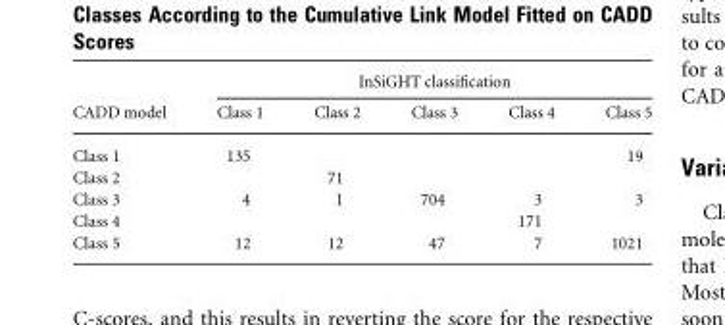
<table><thead><tr><td rowspan="2">CADD model</td><td colspan="5">InSiGHT classification</td></tr><tr><td>Class 1</td><td>Class 2</td><td>Class 3</td><td>Class 4</td><td>Class 5</td></tr></thead><tbody><tr><td>Class 1</td><td>135</td><td></td><td></td><td></td><td>19</td></tr><tr><td>Class 2</td><td></td><td>71</td><td></td><td></td><td></td></tr><tr><td>Class 3</td><td>4</td><td>1</td><td>704</td><td>3</td><td>3</td></tr><tr><td>Class 4</td><td></td><td></td><td></td><td>171</td><td></td></tr><tr><td>Class 5</td><td>12</td><td>12</td><td>47</td><td>7</td><td>1021</td></tr></tbody></table>